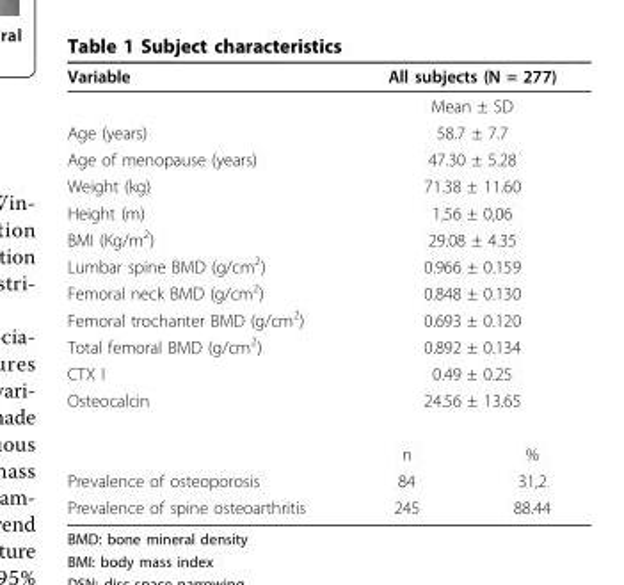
<table><thead><tr><td>Variable</td><td colspan="2">All subjects (N = 277)</td></tr></thead><tbody><tr><td></td><td colspan="2">Mean ± SD</td></tr><tr><td>Age (years)</td><td colspan="2">58.7 ± 7.7</td></tr><tr><td>Age of menopause (years)</td><td colspan="2">47.30 ± 5.28</td></tr><tr><td>Weight (kg)</td><td colspan="2">71.38 ± 11.60</td></tr><tr><td>Height (m)</td><td colspan="2">1,56 ± 0,06</td></tr><tr><td>BMI (Kg/m<sup>2</sup>)</td><td colspan="2">29.08 ± 4.35</td></tr><tr><td>Lumbar spine BMD (g/cm<sup>2</sup>)</td><td colspan="2">0.966 ± 0.159</td></tr><tr><td>Femoral neck BMD (g/cm<sup>2</sup>)</td><td colspan="2">0.848 ± 0.130</td></tr><tr><td>Femoral trochanter BMD (g/cm<sup>2</sup>)</td><td colspan="2">0.693 ± 0.120</td></tr><tr><td>Total femoral BMD (g/cm<sup>2</sup>)</td><td colspan="2">0.892 ± 0.134</td></tr><tr><td>CTX I</td><td colspan="2">0.49 ± 0.25</td></tr><tr><td rowspan="2">Osteocalcin</td><td colspan="2">24.56 ± 13.65</td></tr><tr><td>n</td><td>%</td></tr><tr><td>Prevalence of osteoporosis</td><td>84</td><td>31,2</td></tr><tr><td>Prevalence of spine osteoarthritis</td><td>245</td><td>88.44</td></tr></tbody></table>